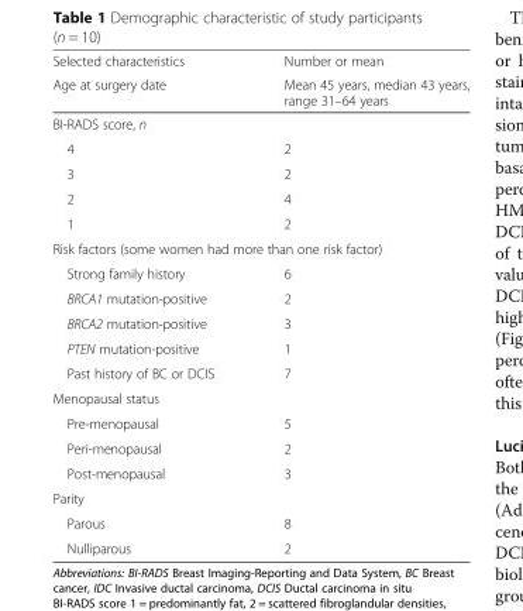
<table><thead><tr><td rowspan="2">Selected characteristics Age at surgery date</td><td rowspan="2">Number or mean Mean 45 years, median 43 years, range 31–64 years</td></tr><tr></tr></thead><tbody><tr><td colspan="2">BI-RADS score, n</td></tr><tr><td>4</td><td>2</td></tr><tr><td>3</td><td>2</td></tr><tr><td>2</td><td>4</td></tr><tr><td>1</td><td>2</td></tr><tr><td colspan="2">Risk factors (some women had more than one risk factor)</td></tr><tr><td>Strong family history</td><td>6</td></tr><tr><td>BRCA1 mutation-positive</td><td>2</td></tr><tr><td>BRCA2 mutation-positive</td><td>3</td></tr><tr><td>PTEN mutation-positive</td><td>1</td></tr><tr><td>Past history of BC or DCIS</td><td>7</td></tr><tr><td colspan="2">Menopausal status</td></tr><tr><td>Pre-menopausal</td><td>5</td></tr><tr><td>Peri-menopausal</td><td>2</td></tr><tr><td>Post-menopausal</td><td>3</td></tr><tr><td colspan="2">Parity</td></tr><tr><td>Parous</td><td>8</td></tr><tr><td>Nulliparous</td><td>2</td></tr></tbody></table>